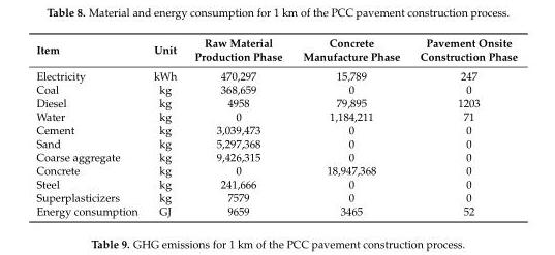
<table><thead><tr><td>Item</td><td>Unit</td><td>Raw Material Production Phase</td><td>Concrete Manufacture Phase</td><td>Pavement Onsite Construction Phase</td></tr></thead><tbody><tr><td>Electricity</td><td>kWh</td><td>470,297</td><td>15,789</td><td>247</td></tr><tr><td>Coal</td><td>kg</td><td>368,659</td><td>0</td><td>0</td></tr><tr><td>Diesel</td><td>kg</td><td>4958</td><td>79,895</td><td>1203</td></tr><tr><td>Water</td><td>kg</td><td>0</td><td>1,184,211</td><td>71</td></tr><tr><td>Cement</td><td>kg</td><td>3,039,473</td><td>0</td><td>0</td></tr><tr><td>Sand</td><td>kg</td><td>5,297,368</td><td>0</td><td>0</td></tr><tr><td>Coarse aggregate</td><td>kg</td><td>9,426,315</td><td>0</td><td>0</td></tr><tr><td>Concrete</td><td>kg</td><td>0</td><td>18,947,368</td><td>0</td></tr><tr><td>Steel</td><td>kg</td><td>241,666</td><td>0</td><td>0</td></tr><tr><td>Superplasticizers</td><td>kg</td><td>7579</td><td>0</td><td>0</td></tr><tr><td>Energy consumption</td><td>GJ</td><td>9659</td><td>3465</td><td>52</td></tr></tbody></table>